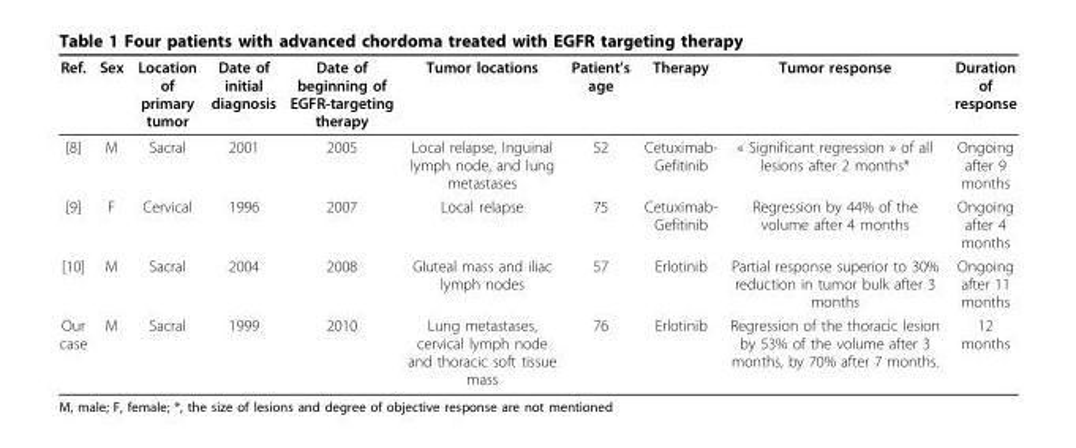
<table><thead><tr><td>Ref.</td><td>Sex</td><td>Location of primary tumor</td><td>Date of initial diagnosis</td><td>Date of beginning of EGFR-targeting therapy</td><td>Tumor locations</td><td>Patient’s age</td><td>Therapy</td><td>Tumor response</td><td>Duration of response</td></tr></thead><tbody><tr><td>[8]</td><td>M</td><td>Sacral</td><td>2001</td><td>2005</td><td>Local relapse, Inguinal lymph node, and lung metastases</td><td>52</td><td>Cetuximab- Gefitinib</td><td>« Significant regression » of all lesions after 2 months*</td><td>Ongoing after 9 months</td></tr><tr><td>[9]</td><td>F</td><td>Cervical</td><td>1996</td><td>2007</td><td>Local relapse</td><td>75</td><td>Cetuximab- Gefitinib</td><td>Regression by 44% of the volume after 4 months</td><td>Ongoing after 4 months</td></tr><tr><td>[10]</td><td>M</td><td>Sacral</td><td>2004</td><td>2008</td><td>Gluteal mass and iliac lymph nodes</td><td>57</td><td>Erlotinib</td><td>Partial response superior to 30% reduction in tumor bulk after 3 months</td><td>Ongoing after 11 months</td></tr><tr><td>Our case</td><td>M</td><td>Sacral</td><td>1999</td><td>2010</td><td>Lung metastases, cervical lymph node and thoracic soft tissue mass</td><td>76</td><td>Erlotinib</td><td>Regression of the thoracic lesion by 53% of the volume after 3 months, by 70% after 7 months.</td><td>12 months</td></tr></tbody></table>